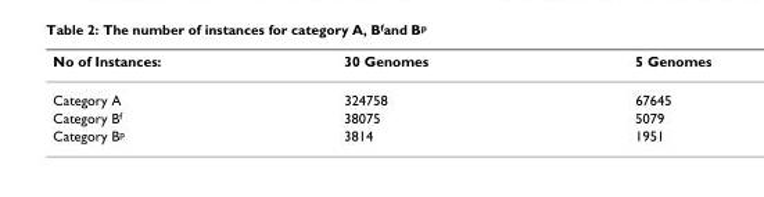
<table><thead><tr><td>No of Instances:</td><td>30 Genomes</td><td>5 Genomes</td></tr></thead><tbody><tr><td>Category A</td><td>324758</td><td>67645</td></tr><tr><td>Category Bf</td><td>38075</td><td>5079</td></tr><tr><td>Category Bp</td><td>3814</td><td>1951</td></tr></tbody></table>